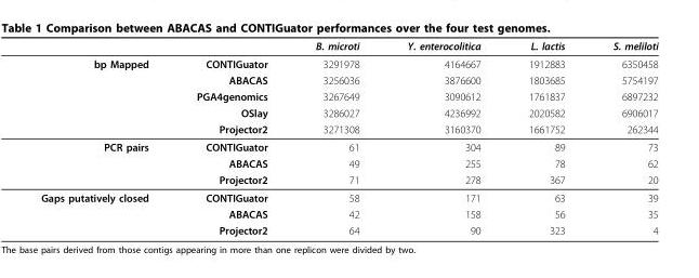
<table><thead><tr><td></td><td></td><td>B. microti</td><td>Y. enterocolitica</td><td>L. lactis</td><td>S. meliloti</td></tr></thead><tbody><tr><td rowspan="5">bp Mapped</td><td>CONTIGuator</td><td>3291978</td><td>4164667</td><td>1912883</td><td>6350458</td></tr><tr><td>ABACAS</td><td>3256036</td><td>3876600</td><td>1803685</td><td>5754197</td></tr><tr><td>PGA4genomics</td><td>3267649</td><td>3090612</td><td>1761837</td><td>6897232</td></tr><tr><td>OSlay</td><td>3286027</td><td>4236992</td><td>2020582</td><td>6906017</td></tr><tr><td>Projector2</td><td>3271308</td><td>3160370</td><td>1661752</td><td>262344</td></tr><tr><td rowspan="3">PCR pairs</td><td>CONTIGuator</td><td>61</td><td>304</td><td>89</td><td>73</td></tr><tr><td>ABACAS</td><td>49</td><td>255</td><td>78</td><td>62</td></tr><tr><td>Projector2</td><td>71</td><td>278</td><td>367</td><td>20</td></tr><tr><td rowspan="3">Gaps putatively closed</td><td>CONTIGuator</td><td>58</td><td>171</td><td>63</td><td>39</td></tr><tr><td>ABACAS</td><td>42</td><td>158</td><td>56</td><td>35</td></tr><tr><td>Projector2</td><td>64</td><td>90</td><td>323</td><td>4</td></tr></tbody></table>